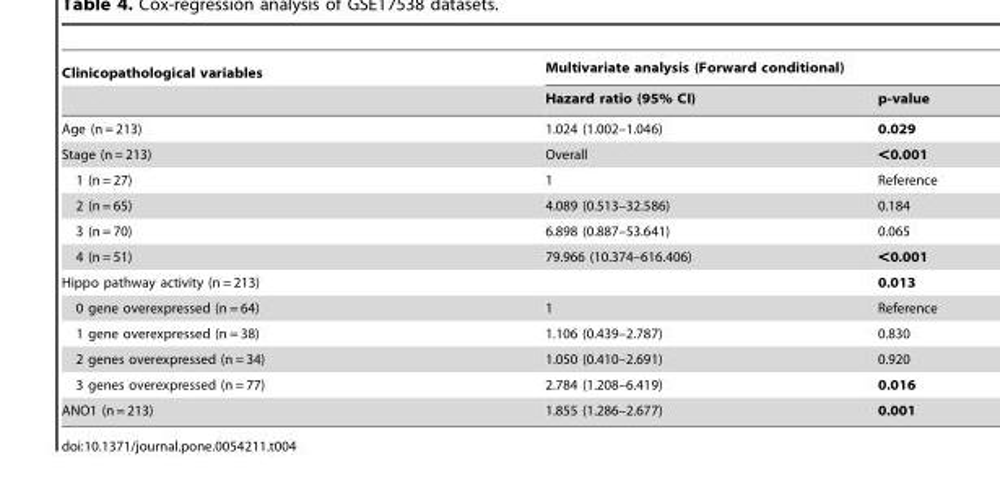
<table><thead><tr><td rowspan="2">Clinicopathological variables</td><td colspan="2">Multivariate analysis (Forward conditional)</td></tr><tr><td>Hazard ratio (95% CI)</td><td>p-value</td></tr></thead><tbody><tr><td>Age (n = 213)</td><td>1.024 (1.002–1.046)</td><td>0.029</td></tr><tr><td>Stage (n = 213)</td><td>Overall</td><td>&lt;0.001</td></tr><tr><td>1 (n = 27)</td><td>1</td><td>Reference</td></tr><tr><td>2 (n = 65)</td><td>4.089 (0.513–32.586)</td><td>0.184</td></tr><tr><td>3 (n = 70)</td><td>6.898 (0.887–53.641)</td><td>0.065</td></tr><tr><td>4 (n = 51)</td><td>79.966 (10.374–616.406)</td><td>&lt;0.001</td></tr><tr><td>Hippo pathway activity (n = 213)</td><td></td><td>0.013</td></tr><tr><td>0 gene overexpressed (n = 64)</td><td>1</td><td>Reference</td></tr><tr><td>1 gene overexpressed (n = 38)</td><td>1.106 (0.439–2.787)</td><td>0.830</td></tr><tr><td>2 genes overexpressed (n = 34)</td><td>1.050 (0.410–2.691)</td><td>0.920</td></tr><tr><td>3 genes overexpressed (n = 77)</td><td>2.784 (1.208–6.419)</td><td>0.016</td></tr><tr><td>ANO1 (n = 213)</td><td>1.855 (1.286–2.677)</td><td>0.001</td></tr></tbody></table>